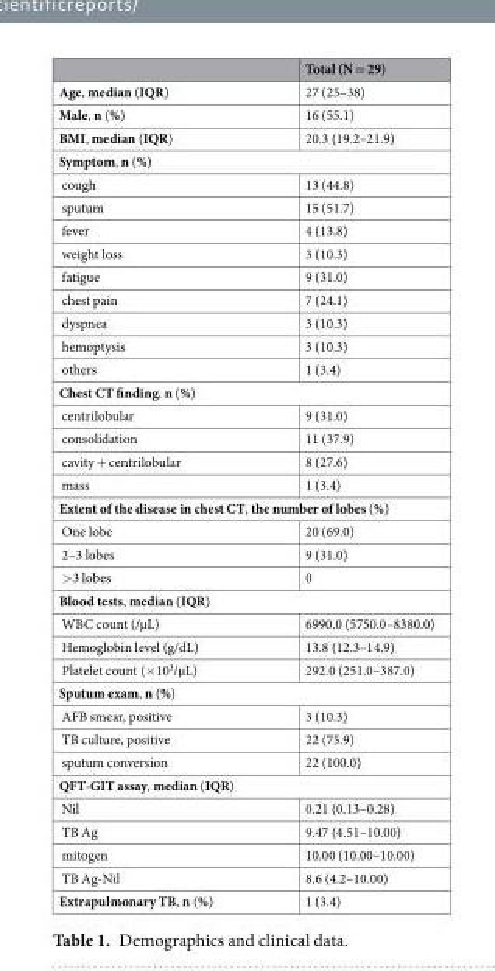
<table><thead><tr><td></td><td>Total (N = 29)</td></tr></thead><tbody><tr><td>Age, median (IQR)</td><td>27 (25–38)</td></tr><tr><td>Male, n (%)</td><td>16 (55.1)</td></tr><tr><td>BMI, median (IQR)</td><td>20.3 (19.2–21.9)</td></tr><tr><td colspan="2">Symptom, n (%)</td></tr><tr><td>cough</td><td>13 (44.8)</td></tr><tr><td>sputum</td><td>15 (51.7)</td></tr><tr><td>fever</td><td>4 (13.8)</td></tr><tr><td>weight loss</td><td>3 (10.3)</td></tr><tr><td>fatigue</td><td>9 (31.0)</td></tr><tr><td>chest pain</td><td>7 (24.1)</td></tr><tr><td>dyspnea</td><td>3 (10.3)</td></tr><tr><td>hemoptysis</td><td>3 (10.3)</td></tr><tr><td>others</td><td>1 (3.4)</td></tr><tr><td colspan="2">Chest CT finding, n (%)</td></tr><tr><td>centrilobular</td><td>9 (31.0)</td></tr><tr><td>consolidation</td><td>11 (37.9)</td></tr><tr><td>cavity + centrilobular</td><td>8 (27.6)</td></tr><tr><td>mass</td><td>1 (3.4)</td></tr><tr><td colspan="2">Extent of the disease in chest CT, the number of lobes (%)</td></tr><tr><td>One lobe</td><td>20 (69.0)</td></tr><tr><td>2–3 lobes</td><td>9 (31.0)</td></tr><tr><td>&gt;3 lobes</td><td>0</td></tr><tr><td colspan="2">Blood tests, median (IQR)</td></tr><tr><td>WBC count (/µL)</td><td>6990.0 (5750.0–8380.0)</td></tr><tr><td>Hemoglobin level (g/dL)</td><td>13.8 (12.3–14.9)</td></tr><tr><td>Platelet count (×10<sup>3</sup>/µL)</td><td>292.0 (251.0–387.0)</td></tr><tr><td colspan="2">Sputum exam, n (%)</td></tr><tr><td>AFB smear, positive</td><td>3 (10.3)</td></tr><tr><td>TB culture, positive</td><td>22 (75.9)</td></tr><tr><td>sputum conversion</td><td>22 (100.0)</td></tr><tr><td colspan="2">QFT-GIT assay, median (IQR)</td></tr><tr><td>Nil</td><td>0.21 (0.13–0.28)</td></tr><tr><td>TB Ag</td><td>9.47 (4.51–10.00)</td></tr><tr><td>mitogen</td><td>10.00 (10.00–10.00)</td></tr><tr><td>TB Ag-Nil</td><td>8.6 (4.2–10.00)</td></tr><tr><td>Extrapulmonary TB, n (%)</td><td>1 (3.4)</td></tr></tbody></table>